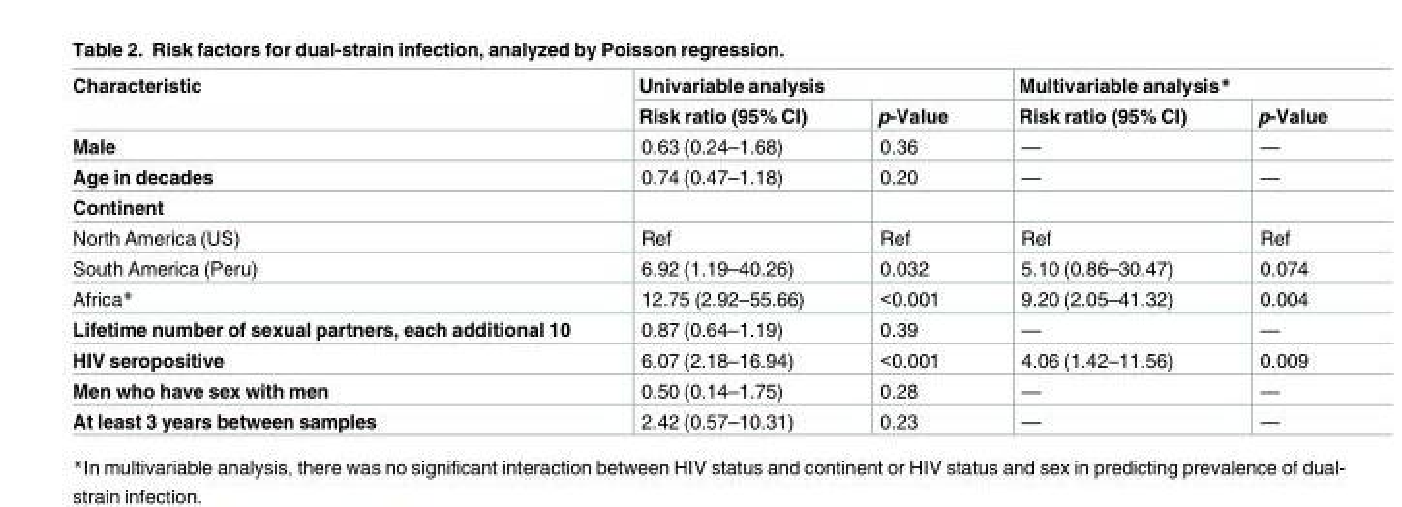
<table><thead><tr><td rowspan="2">Characteristic</td><td colspan="2">Univariable analysis</td><td colspan="2">Multivariable analysis*</td></tr><tr><td>Risk ratio (95% CI)</td><td>p-Value</td><td>Risk ratio (95% CI)</td><td>p-Value</td></tr></thead><tbody><tr><td>Male</td><td>0.63 (0.24–1.68)</td><td>0.36</td><td>—</td><td>—</td></tr><tr><td>Age in decades</td><td>0.74 (0.47–1.18)</td><td>0.20</td><td>—</td><td>—</td></tr><tr><td colspan="5">Continent</td></tr><tr><td>North America (US)</td><td>Ref</td><td>Ref</td><td>Ref</td><td>Ref</td></tr><tr><td>South America (Peru)</td><td>6.92 (1.19–40.26)</td><td>0.032</td><td>5.10 (0.86–30.47)</td><td>0.074</td></tr><tr><td>Africa*</td><td>12.75 (2.92–55.66)</td><td>&lt;0.001</td><td>9.20 (2.05–41.32)</td><td>0.004</td></tr><tr><td>Lifetime number of sexual partners, each additional 10</td><td>0.87 (0.64–1.19)</td><td>0.39</td><td>—</td><td>—</td></tr><tr><td>HIV seropositive</td><td>6.07 (2.18–16.94)</td><td>&lt;0.001</td><td>4.06 (1.42–11.56)</td><td>0.009</td></tr><tr><td>Men who have sex with men</td><td>0.50 (0.14–1.75)</td><td>0.28</td><td>—</td><td>—</td></tr><tr><td>At least 3 years between samples</td><td>2.42 (0.57–10.31)</td><td>0.23</td><td>—</td><td>—</td></tr></tbody></table>